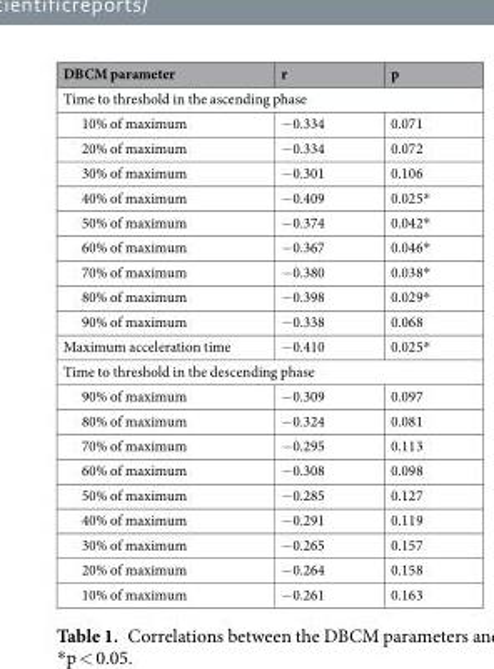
<table><thead><tr><td>DBCM parameter</td><td>r</td><td>p</td></tr></thead><tbody><tr><td colspan="3">Time to threshold in the ascending phase</td></tr><tr><td>10% of maximum</td><td>−0.334</td><td>0.071</td></tr><tr><td>20% of maximum</td><td>−0.334</td><td>0.072</td></tr><tr><td>30% of maximum</td><td>−0.301</td><td>0.106</td></tr><tr><td>40% of maximum</td><td>−0.409</td><td>0.025*</td></tr><tr><td>50% of maximum</td><td>−0.374</td><td>0.042*</td></tr><tr><td>60% of maximum</td><td>−0.367</td><td>0.046*</td></tr><tr><td>70% of maximum</td><td>−0.380</td><td>0.038*</td></tr><tr><td>80% of maximum</td><td>−0.398</td><td>0.029*</td></tr><tr><td>90% of maximum</td><td>−0.338</td><td>0.068</td></tr><tr><td>Maximum acceleration time</td><td>−0.410</td><td>0.025*</td></tr><tr><td colspan="3">Time to threshold in the descending phase</td></tr><tr><td>90% of maximum</td><td>−0.309</td><td>0.097</td></tr><tr><td>80% of maximum</td><td>−0.324</td><td>0.081</td></tr><tr><td>70% of maximum</td><td>−0.295</td><td>0.113</td></tr><tr><td>60% of maximum</td><td>−0.308</td><td>0.098</td></tr><tr><td>50% of maximum</td><td>−0.285</td><td>0.127</td></tr><tr><td>40% of maximum</td><td>−0.291</td><td>0.119</td></tr><tr><td>30% of maximum</td><td>−0.265</td><td>0.157</td></tr><tr><td>20% of maximum</td><td>−0.264</td><td>0.158</td></tr><tr><td>10% of maximum</td><td>−0.261</td><td>0.163</td></tr></tbody></table>